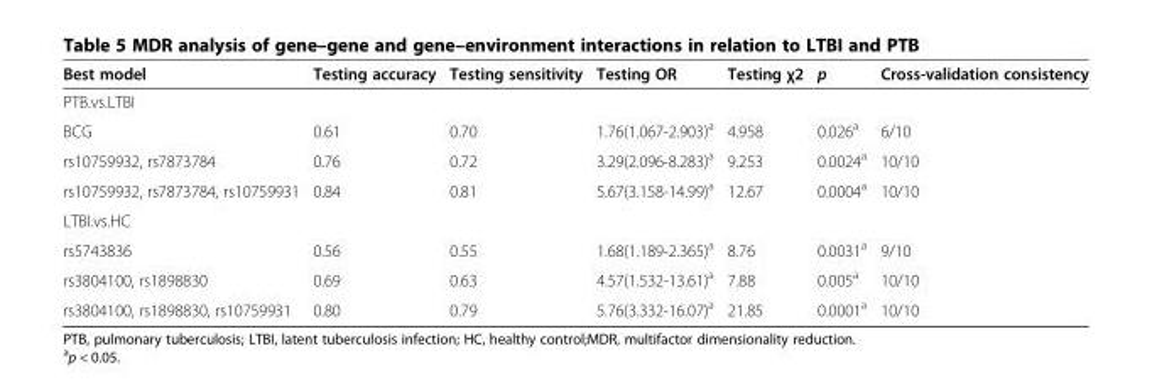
<table><thead><tr><td>Best model</td><td>Testing accuracy</td><td>Testing sensitivity</td><td>Testing OR</td><td>Testing χ2</td><td>p</td><td>Cross-validation consistency</td></tr></thead><tbody><tr><td colspan="7">PTB.vs.LTBI</td></tr><tr><td>BCG</td><td>0.61</td><td>0.70</td><td>1.76(1.067-2.903)<sup>a</sup></td><td>4.958</td><td>0.026<sup>a</sup></td><td>6/10</td></tr><tr><td>rs10759932, rs7873784</td><td>0.76</td><td>0.72</td><td>3.29(2.096-8.283)<sup>a</sup></td><td>9.253</td><td>0.0024<sup>a</sup></td><td>10/10</td></tr><tr><td>rs10759932, rs7873784, rs10759931</td><td>0.84</td><td>0.81</td><td>5.67(3.158-14.99)<sup>a</sup></td><td>12.67</td><td>0.0004<sup>a</sup></td><td>10/10</td></tr><tr><td colspan="7">LTBI.vs.HC</td></tr><tr><td>rs5743836</td><td>0.56</td><td>0.55</td><td>1.68(1.189-2.365)<sup>a</sup></td><td>8.76</td><td>0.0031<sup>a</sup></td><td>9/10</td></tr><tr><td>rs3804100, rs1898830</td><td>0.69</td><td>0.63</td><td>4.57(1.532-13.61)<sup>a</sup></td><td>7.88</td><td>0.005<sup>a</sup></td><td>10/10</td></tr><tr><td>rs3804100, rs1898830, rs10759931</td><td>0.80</td><td>0.79</td><td>5.76(3.332-16.07)<sup>a</sup></td><td>21.85</td><td>0.0001<sup>a</sup></td><td>10/10</td></tr></tbody></table>